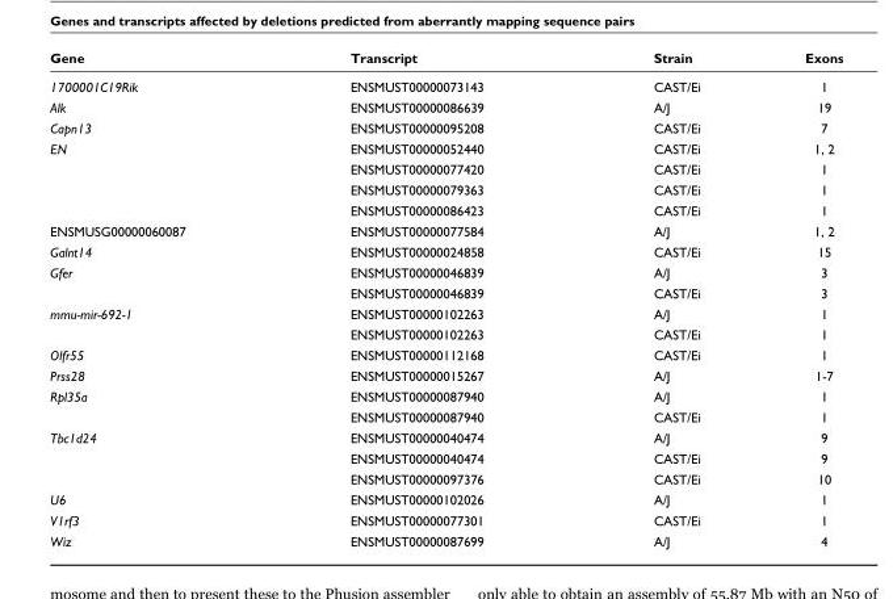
<table><thead><tr><td>Gene</td><td>Transcript</td><td>Strain</td><td>Exons</td></tr></thead><tbody><tr><td>1700001C19Rik</td><td>ENSMUST00000073143</td><td>CAST/Ei</td><td>1</td></tr><tr><td>Alk</td><td>ENSMUST00000086639</td><td>A/J</td><td>19</td></tr><tr><td>Capn13</td><td>ENSMUST00000095208</td><td>CAST/Ei</td><td>7</td></tr><tr><td rowspan="4">EN</td><td>ENSMUST00000052440</td><td>CAST/Ei</td><td>1, 2</td></tr><tr><td>ENSMUST00000077420</td><td>CAST/Ei</td><td>1</td></tr><tr><td>ENSMUST00000079363</td><td>CAST/Ei</td><td>1</td></tr><tr><td>ENSMUST00000086423</td><td>CAST/Ei</td><td>1</td></tr><tr><td>ENSMUSG00000060087</td><td>ENSMUST00000077584</td><td>A/J</td><td>1, 2</td></tr><tr><td>Galnt14</td><td>ENSMUST00000024858</td><td>CAST/Ei</td><td>15</td></tr><tr><td rowspan="2">Gfer</td><td>ENSMUST00000046839</td><td>A/J</td><td>3</td></tr><tr><td>ENSMUST00000046839</td><td>CAST/Ei</td><td>3</td></tr><tr><td rowspan="2">mmu-mir-692-1</td><td>ENSMUST00000102263</td><td>A/J</td><td>1</td></tr><tr><td>ENSMUST00000102263</td><td>CAST/Ei</td><td>1</td></tr><tr><td>Olfr55</td><td>ENSMUST00000112168</td><td>CAST/Ei</td><td>1</td></tr><tr><td>Prss28</td><td>ENSMUST00000015267</td><td>A/J</td><td>1-7</td></tr><tr><td rowspan="2">Rpl35a</td><td>ENSMUST00000087940</td><td>A/J</td><td>1</td></tr><tr><td>ENSMUST00000087940</td><td>CAST/Ei</td><td>1</td></tr><tr><td rowspan="3">Tbc1d24</td><td>ENSMUST00000040474</td><td>A/J</td><td>9</td></tr><tr><td>ENSMUST00000040474</td><td>CAST/Ei</td><td>9</td></tr><tr><td>ENSMUST00000097376</td><td>CAST/Ei</td><td>10</td></tr><tr><td>U6</td><td>ENSMUST00000102026</td><td>A/J</td><td>1</td></tr><tr><td>V1rf3</td><td>ENSMUST00000077301</td><td>CAST/Ei</td><td>1</td></tr><tr><td>Wiz</td><td>ENSMUST00000087699</td><td>A/J</td><td>4</td></tr></tbody></table>